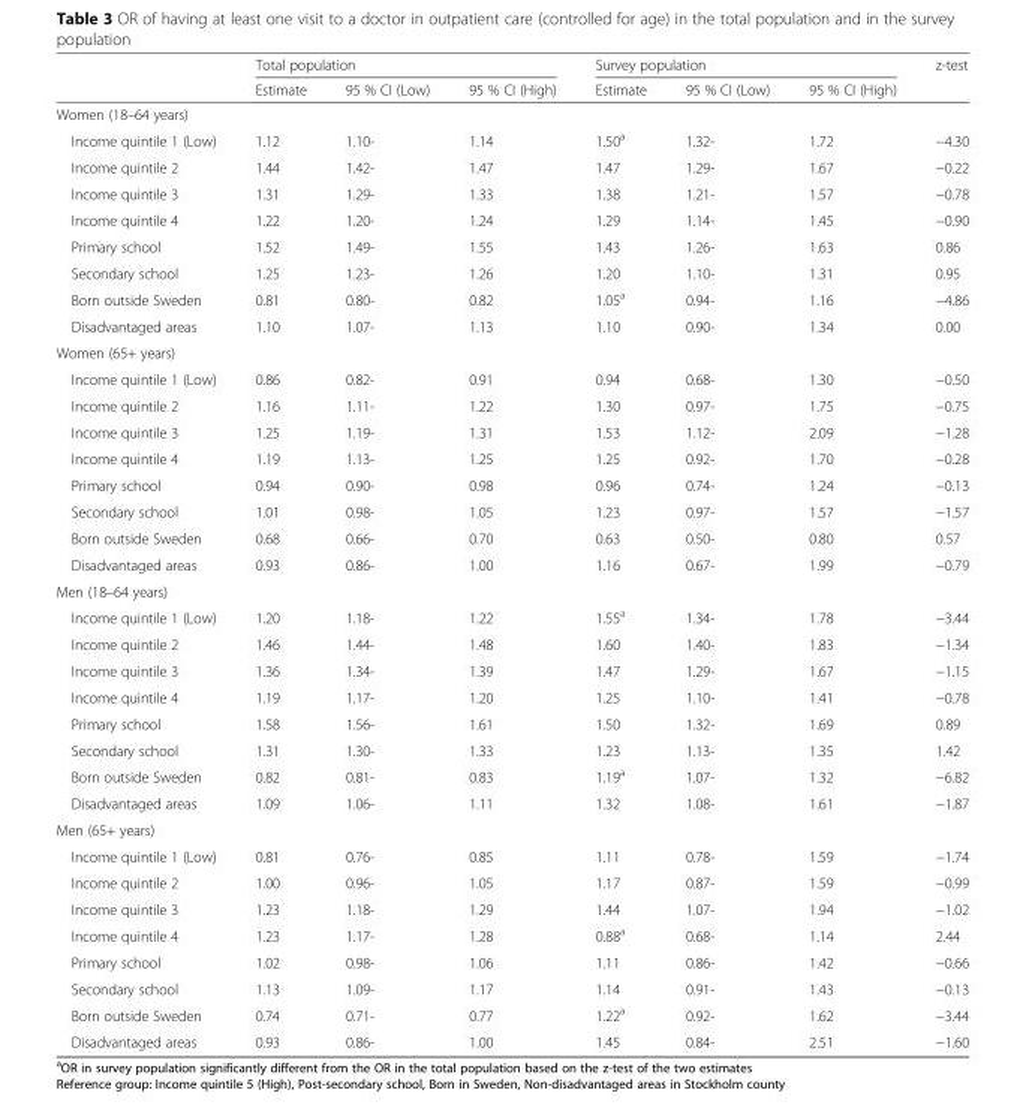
<table><thead><tr><td rowspan="2"></td><td colspan="3">Total population</td><td colspan="3">Survey population</td><td rowspan="2">z-test</td></tr><tr><td>Estimate</td><td>95 % CI (Low)</td><td>95 % CI (High)</td><td>Estimate</td><td>95 % CI (Low)</td><td>95 % CI (High)</td></tr></thead><tbody><tr><td colspan="8">Women (18–64 years)</td></tr><tr><td>Income quintile 1 (Low)</td><td>1.12</td><td>1.10-</td><td>1.14</td><td>1.50<sup>a</sup></td><td>1.32-</td><td>1.72</td><td>−4.30</td></tr><tr><td>Income quintile 2</td><td>1.44</td><td>1.42-</td><td>1.47</td><td>1.47</td><td>1.29-</td><td>1.67</td><td>−0.22</td></tr><tr><td>Income quintile 3</td><td>1.31</td><td>1.29-</td><td>1.33</td><td>1.38</td><td>1.21-</td><td>1.57</td><td>−0.78</td></tr><tr><td>Income quintile 4</td><td>1.22</td><td>1.20-</td><td>1.24</td><td>1.29</td><td>1.14-</td><td>1.45</td><td>−0.90</td></tr><tr><td>Primary school</td><td>1.52</td><td>1.49-</td><td>1.55</td><td>1.43</td><td>1.26-</td><td>1.63</td><td>0.86</td></tr><tr><td>Secondary school</td><td>1.25</td><td>1.23-</td><td>1.26</td><td>1.20</td><td>1.10-</td><td>1.31</td><td>0.95</td></tr><tr><td>Born outside Sweden</td><td>0.81</td><td>0.80-</td><td>0.82</td><td>1.05<sup>a</sup></td><td>0.94-</td><td>1.16</td><td>−4.86</td></tr><tr><td>Disadvantaged areas</td><td>1.10</td><td>1.07-</td><td>1.13</td><td>1.10</td><td>0.90-</td><td>1.34</td><td>0.00</td></tr><tr><td colspan="8">Women (65+ years)</td></tr><tr><td>Income quintile 1 (Low)</td><td>0.86</td><td>0.82-</td><td>0.91</td><td>0.94</td><td>0.68-</td><td>1.30</td><td>−0.50</td></tr><tr><td>Income quintile 2</td><td>1.16</td><td>1.11-</td><td>1.22</td><td>1.30</td><td>0.97-</td><td>1.75</td><td>−0.75</td></tr><tr><td>Income quintile 3</td><td>1.25</td><td>1.19-</td><td>1.31</td><td>1.53</td><td>1.12-</td><td>2.09</td><td>−1.28</td></tr><tr><td>Income quintile 4</td><td>1.19</td><td>1.13-</td><td>1.25</td><td>1.25</td><td>0.92-</td><td>1.70</td><td>−0.28</td></tr><tr><td>Primary school</td><td>0.94</td><td>0.90-</td><td>0.98</td><td>0.96</td><td>0.74-</td><td>1.24</td><td>−0.13</td></tr><tr><td>Secondary school</td><td>1.01</td><td>0.98-</td><td>1.05</td><td>1.23</td><td>0.97-</td><td>1.57</td><td>−1.57</td></tr><tr><td>Born outside Sweden</td><td>0.68</td><td>0.66-</td><td>0.70</td><td>0.63</td><td>0.50-</td><td>0.80</td><td>0.57</td></tr><tr><td>Disadvantaged areas</td><td>0.93</td><td>0.86-</td><td>1.00</td><td>1.16</td><td>0.67-</td><td>1.99</td><td>−0.79</td></tr><tr><td colspan="8">Men (18–64 years)</td></tr><tr><td>Income quintile 1 (Low)</td><td>1.20</td><td>1.18-</td><td>1.22</td><td>1.55<sup>a</sup></td><td>1.34-</td><td>1.78</td><td>−3.44</td></tr><tr><td>Income quintile 2</td><td>1.46</td><td>1.44-</td><td>1.48</td><td>1.60</td><td>1.40-</td><td>1.83</td><td>−1.34</td></tr><tr><td>Income quintile 3</td><td>1.36</td><td>1.34-</td><td>1.39</td><td>1.47</td><td>1.29-</td><td>1.67</td><td>−1.15</td></tr><tr><td>Income quintile 4</td><td>1.19</td><td>1.17-</td><td>1.20</td><td>1.25</td><td>1.10-</td><td>1.41</td><td>−0.78</td></tr><tr><td>Primary school</td><td>1.58</td><td>1.56-</td><td>1.61</td><td>1.50</td><td>1.32-</td><td>1.69</td><td>0.89</td></tr><tr><td>Secondary school</td><td>1.31</td><td>1.30-</td><td>1.33</td><td>1.23</td><td>1.13-</td><td>1.35</td><td>1.42</td></tr><tr><td>Born outside Sweden</td><td>0.82</td><td>0.81-</td><td>0.83</td><td>1.19<sup>a</sup></td><td>1.07-</td><td>1.32</td><td>−6.82</td></tr><tr><td>Disadvantaged areas</td><td>1.09</td><td>1.06-</td><td>1.11</td><td>1.32</td><td>1.08-</td><td>1.61</td><td>−1.87</td></tr><tr><td colspan="8">Men (65+ years)</td></tr><tr><td>Income quintile 1 (Low)</td><td>0.81</td><td>0.76-</td><td>0.85</td><td>1.11</td><td>0.78-</td><td>1.59</td><td>−1.74</td></tr><tr><td>Income quintile 2</td><td>1.00</td><td>0.96-</td><td>1.05</td><td>1.17</td><td>0.87-</td><td>1.59</td><td>−0.99</td></tr><tr><td>Income quintile 3</td><td>1.23</td><td>1.18-</td><td>1.29</td><td>1.44</td><td>1.07-</td><td>1.94</td><td>−1.02</td></tr><tr><td>Income quintile 4</td><td>1.23</td><td>1.17-</td><td>1.28</td><td>0.88<sup>a</sup></td><td>0.68-</td><td>1.14</td><td>2.44</td></tr><tr><td>Primary school</td><td>1.02</td><td>0.98-</td><td>1.06</td><td>1.11</td><td>0.86-</td><td>1.42</td><td>−0.66</td></tr><tr><td>Secondary school</td><td>1.13</td><td>1.09-</td><td>1.17</td><td>1.14</td><td>0.91-</td><td>1.43</td><td>−0.13</td></tr><tr><td>Born outside Sweden</td><td>0.74</td><td>0.71-</td><td>0.77</td><td>1.22<sup>a</sup></td><td>0.92-</td><td>1.62</td><td>−3.44</td></tr><tr><td>Disadvantaged areas</td><td>0.93</td><td>0.86-</td><td>1.00</td><td>1.45</td><td>0.84-</td><td>2.51</td><td>−1.60</td></tr></tbody></table>